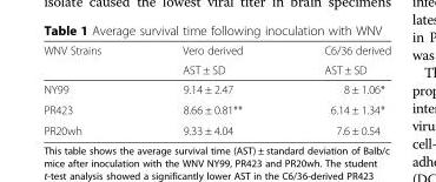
<table><thead><tr><td rowspan="2">WNV Strains</td><td rowspan="2">Vero derived AST ± SD</td><td rowspan="2">C6/36 derived AST ± SD</td></tr><tr></tr></thead><tbody><tr><td>NY99</td><td>9.14 ± 2.47</td><td>8 ± 1.06*</td></tr><tr><td>PR423</td><td>8.66 ± 0.81**</td><td>6.14 ± 1.34*</td></tr><tr><td>PR20wh</td><td>9.33 ± 4.04</td><td>7.6 ± 0.54</td></tr></tbody></table>